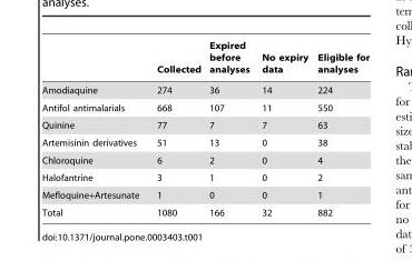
<table><thead><tr><td></td><td>Collected</td><td>Expired before analyses</td><td>No expiry data</td><td>Eligible for analyses</td></tr></thead><tbody><tr><td>Amodiaquine</td><td>274</td><td>36</td><td>14</td><td>224</td></tr><tr><td>Antifol antimalarials</td><td>668</td><td>107</td><td>11</td><td>550</td></tr><tr><td>Quinine</td><td>77</td><td>7</td><td>7</td><td>63</td></tr><tr><td>Artemisinin derivatives</td><td>51</td><td>13</td><td>0</td><td>38</td></tr><tr><td>Chloroquine</td><td>6</td><td>2</td><td>0</td><td>4</td></tr><tr><td>Halofantrine</td><td>3</td><td>1</td><td>0</td><td>2</td></tr><tr><td>Mefloquine+Artesunate</td><td>1</td><td>0</td><td>0</td><td>1</td></tr><tr><td>Total</td><td>1080</td><td>166</td><td>32</td><td>882</td></tr></tbody></table>